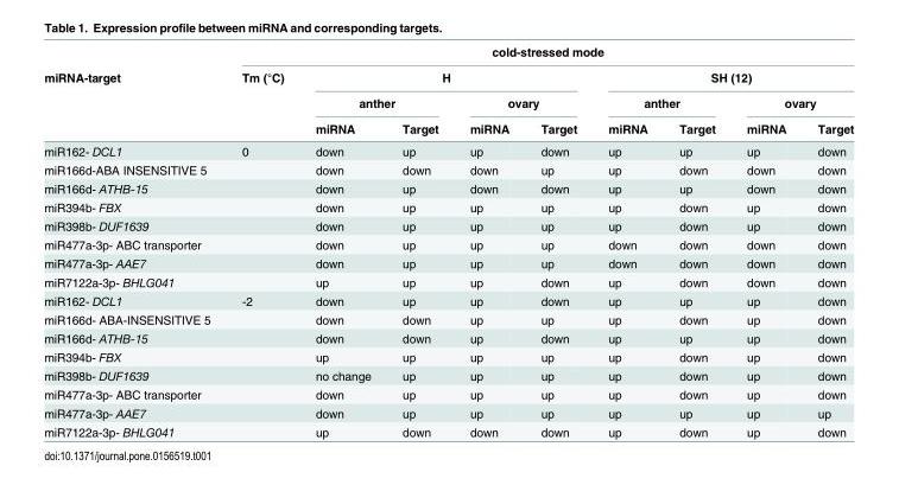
<table><thead><tr><td rowspan="4">miRNA-target</td><td colspan="9">cold-stressed mode</td></tr><tr><td rowspan="3">Tm (°C)</td><td colspan="4">H</td><td colspan="4">SH (12)</td></tr><tr><td colspan="2">anther</td><td colspan="2">ovary</td><td colspan="2">anther</td><td colspan="2">ovary</td></tr><tr><td>miRNA</td><td>Target</td><td>miRNA</td><td>Target</td><td>miRNA</td><td>Target</td><td>miRNA</td><td>Target</td></tr></thead><tbody><tr><td>miR162- DCL1</td><td>0</td><td>down</td><td>up</td><td>up</td><td>down</td><td>up</td><td>up</td><td>up</td><td>down</td></tr><tr><td>miR166d-ABA INSENSITIVE 5</td><td></td><td>down</td><td>down</td><td>down</td><td>up</td><td>up</td><td>down</td><td>down</td><td>down</td></tr><tr><td>miR166d- ATHB-15</td><td></td><td>down</td><td>up</td><td>down</td><td>down</td><td>up</td><td>up</td><td>down</td><td>down</td></tr><tr><td>miR394b- FBX</td><td></td><td>down</td><td>up</td><td>up</td><td>up</td><td>up</td><td>down</td><td>up</td><td>down</td></tr><tr><td>miR398b- DUF1639</td><td></td><td>down</td><td>up</td><td>up</td><td>up</td><td>up</td><td>down</td><td>up</td><td>down</td></tr><tr><td>miR477a-3p- ABC transporter</td><td></td><td>down</td><td>up</td><td>up</td><td>up</td><td>down</td><td>down</td><td>down</td><td>down</td></tr><tr><td>miR477a-3p- AAE7</td><td></td><td>down</td><td>up</td><td>up</td><td>up</td><td>down</td><td>down</td><td>down</td><td>down</td></tr><tr><td>miR7122a-3p- BHLG041</td><td></td><td>up</td><td>up</td><td>up</td><td>down</td><td>up</td><td>down</td><td>down</td><td>down</td></tr><tr><td>miR162- DCL1</td><td>-2</td><td>down</td><td>up</td><td>up</td><td>down</td><td>up</td><td>up</td><td>up</td><td>down</td></tr><tr><td>miR166d- ABA-INSENSITIVE 5</td><td></td><td>down</td><td>down</td><td>up</td><td>up</td><td>up</td><td>down</td><td>up</td><td>down</td></tr><tr><td>miR166d- ATHB-15</td><td></td><td>down</td><td>down</td><td>up</td><td>down</td><td>up</td><td>up</td><td>up</td><td>down</td></tr><tr><td>miR394b- FBX</td><td></td><td>up</td><td>up</td><td>up</td><td>up</td><td>up</td><td>down</td><td>up</td><td>down</td></tr><tr><td>miR398b- DUF1639</td><td></td><td>no change</td><td>up</td><td>up</td><td>up</td><td>up</td><td>down</td><td>up</td><td>down</td></tr><tr><td>miR477a-3p- ABC transporter</td><td></td><td>down</td><td>up</td><td>up</td><td>up</td><td>up</td><td>down</td><td>up</td><td>down</td></tr><tr><td>miR477a-3p- AAE7</td><td></td><td>down</td><td>up</td><td>up</td><td>up</td><td>up</td><td>up</td><td>up</td><td>up</td></tr><tr><td>miR7122a-3p- BHLG041</td><td></td><td>up</td><td>down</td><td>down</td><td>down</td><td>up</td><td>down</td><td>up</td><td>down</td></tr></tbody></table>